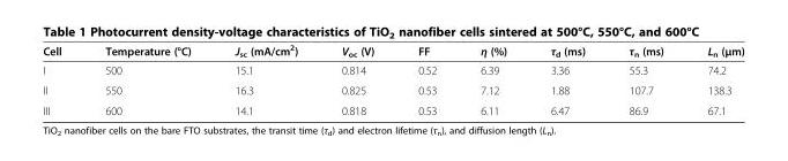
<table><thead><tr><td>Cell</td><td>Temperature (°C)</td><td>J<sub>sc</sub> (mA/cm<sup>2</sup>)</td><td>V<sub>oc</sub> (V)</td><td>FF</td><td>η (%)</td><td>τ<sub>d</sub> (ms)</td><td>τ<sub>n</sub> (ms)</td><td>L<sub>n</sub> (μm)</td></tr></thead><tbody><tr><td>I</td><td>500</td><td>15.1</td><td>0.814</td><td>0.52</td><td>6.39</td><td>3.36</td><td>55.3</td><td>74.2</td></tr><tr><td>II</td><td>550</td><td>16.3</td><td>0.825</td><td>0.53</td><td>7.12</td><td>1.88</td><td>107.7</td><td>138.3</td></tr><tr><td>III</td><td>600</td><td>14.1</td><td>0.818</td><td>0.53</td><td>6.11</td><td>6.47</td><td>86.9</td><td>67.1</td></tr></tbody></table>